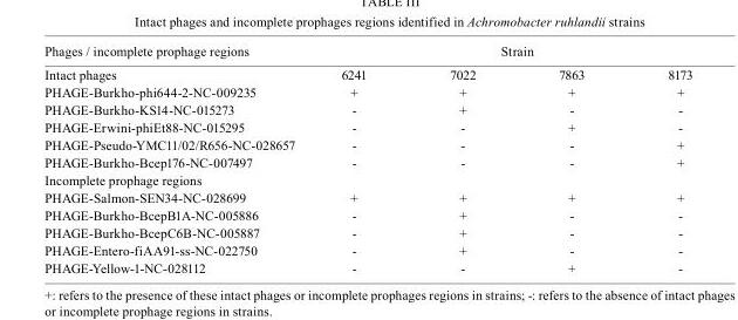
<table><thead><tr><td rowspan="2">Phages / incomplete prophage regions Intact phages</td><td colspan="4">Strain</td></tr><tr><td>6241</td><td>7022</td><td>7863</td><td>8173</td></tr></thead><tbody><tr><td>PHAGE-Burkho-phi644-2-NC-009235</td><td>+</td><td>+</td><td>+</td><td>+</td></tr><tr><td>PHAGE-Burkho-KS14-NC-015273</td><td>-</td><td>+</td><td>-</td><td>-</td></tr><tr><td>PHAGE-Erwini-phiEt88-NC-015295</td><td>-</td><td>-</td><td>+</td><td>-</td></tr><tr><td>PHAGE-Pseudo-YMC11/02/R656-NC-028657</td><td>-</td><td>-</td><td>-</td><td>+</td></tr><tr><td>PHAGE-Burkho-Bcep176-NC-007497</td><td>-</td><td>-</td><td>-</td><td>+</td></tr><tr><td colspan="5">Incomplete prophage regions</td></tr><tr><td>PHAGE-Salmon-SEN34-NC-028699</td><td>+</td><td>+</td><td>+</td><td>+</td></tr><tr><td>PHAGE-Burkho-BcepB1A-NC-005886</td><td>-</td><td>+</td><td>-</td><td>-</td></tr><tr><td>PHAGE-Burkho-BcepC6B-NC-005887</td><td>-</td><td>+</td><td>-</td><td>-</td></tr><tr><td>PHAGE-Entero-fiAA91-ss-NC-022750</td><td>-</td><td>+</td><td>-</td><td>-</td></tr><tr><td>PHAGE-Yellow-1-NC-028112</td><td>-</td><td>-</td><td>+</td><td>-</td></tr></tbody></table>